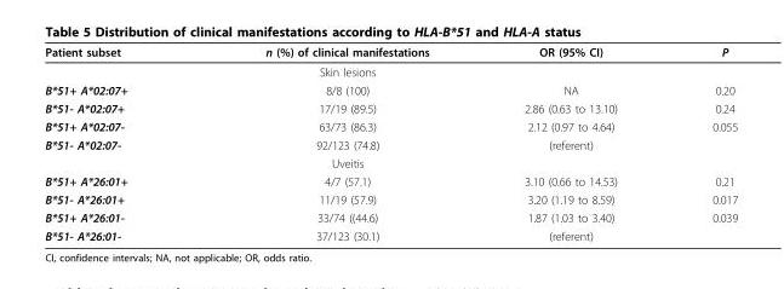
<table><thead><tr><td>Patient subset</td><td>n (%) of clinical manifestations</td><td>OR (95% CI)</td><td>P</td></tr></thead><tbody><tr><td></td><td>Skin lesions</td><td></td><td></td></tr><tr><td>B*51+ A*02:07+</td><td>8/8 (100)</td><td>NA</td><td>0.20</td></tr><tr><td>B*51- A*02:07+</td><td>17/19 (89.5)</td><td>2.86 (0.63 to 13.10)</td><td>0.24</td></tr><tr><td>B*51+ A*02:07-</td><td>63/73 (86.3)</td><td>2.12 (0.97 to 4.64)</td><td>0.055</td></tr><tr><td rowspan="2">B*51- A*02:07-</td><td>92/123 (74.8)</td><td>(referent)</td><td></td></tr><tr><td>Uveitis</td><td></td><td></td></tr><tr><td>B*51+ A*26:01+</td><td>4/7 (57.1)</td><td>3.10 (0.66 to 14.53)</td><td>0.21</td></tr><tr><td>B*51- A*26:01+</td><td>11/19 (57.9)</td><td>3.20 (1.19 to 8.59)</td><td>0.017</td></tr><tr><td>B*51+ A*26:01-</td><td>33/74 ((44.6)</td><td>1.87 (1.03 to 3.40)</td><td>0.039</td></tr><tr><td>B*51- A*26:01-</td><td>37/123 (30.1)</td><td>(referent)</td><td></td></tr></tbody></table>